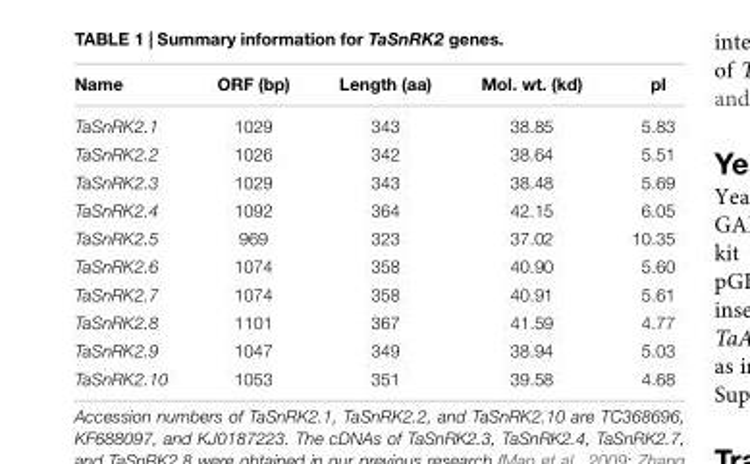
<table><thead><tr><td>Name</td><td>ORF (bp)</td><td>Length (aa)</td><td>Mol. wt. (kd)</td><td>pI</td></tr></thead><tbody><tr><td>TaSnRK2.1</td><td>1029</td><td>343</td><td>38.85</td><td>5.83</td></tr><tr><td>TaSnRK2.2</td><td>1026</td><td>342</td><td>38.64</td><td>5.51</td></tr><tr><td>TaSnRK2.3</td><td>1029</td><td>343</td><td>38.48</td><td>5.69</td></tr><tr><td>TaSnRK2.4</td><td>1092</td><td>364</td><td>42.15</td><td>6.05</td></tr><tr><td>TaSnRK2.5</td><td>969</td><td>323</td><td>37.02</td><td>10.35</td></tr><tr><td>TaSnRK2.6</td><td>1074</td><td>358</td><td>40.90</td><td>5.60</td></tr><tr><td>TaSnRK2.7</td><td>1074</td><td>358</td><td>40.91</td><td>5.61</td></tr><tr><td>TaSnRK2.8</td><td>1101</td><td>367</td><td>41.59</td><td>4.77</td></tr><tr><td>TaSnRK2.9</td><td>1047</td><td>349</td><td>38.94</td><td>5.03</td></tr><tr><td>TaSnRK2.10</td><td>1053</td><td>351</td><td>39.58</td><td>4.68</td></tr></tbody></table>